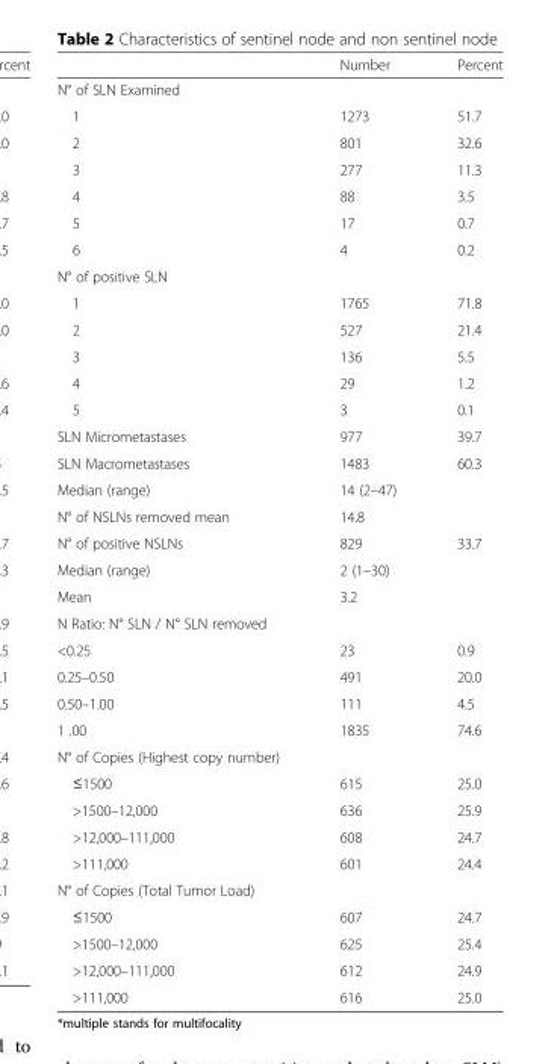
<table><thead><tr><td></td><td>Number</td><td>Percent</td></tr></thead><tbody><tr><td colspan="3">N° of SLN Examined</td></tr><tr><td>1</td><td>1273</td><td>51.7</td></tr><tr><td>2</td><td>801</td><td>32.6</td></tr><tr><td>3</td><td>277</td><td>11.3</td></tr><tr><td>4</td><td>88</td><td>3.5</td></tr><tr><td>5</td><td>17</td><td>0.7</td></tr><tr><td>6</td><td>4</td><td>0.2</td></tr><tr><td colspan="3">N° of positive SLN</td></tr><tr><td>1</td><td>1765</td><td>71.8</td></tr><tr><td>2</td><td>527</td><td>21.4</td></tr><tr><td>3</td><td>136</td><td>5.5</td></tr><tr><td>4</td><td>29</td><td>1.2</td></tr><tr><td>5</td><td>3</td><td>0.1</td></tr><tr><td>SLN Micrometastases</td><td>977</td><td>39.7</td></tr><tr><td>SLN Macrometastases</td><td>1483</td><td>60.3</td></tr><tr><td>Median (range)</td><td>14 (2–47)</td><td></td></tr><tr><td>N° of NSLNs removed mean</td><td>14.8</td><td></td></tr><tr><td>N° of positive NSLNs</td><td>829</td><td>33.7</td></tr><tr><td>Median (range)</td><td>2 (1–30)</td><td></td></tr><tr><td>Mean</td><td>3.2</td><td></td></tr><tr><td colspan="3">N Ratio: N° SLN / N° SLN removed</td></tr><tr><td>&lt;0.25</td><td>23</td><td>0.9</td></tr><tr><td>0.25–0.50</td><td>491</td><td>20.0</td></tr><tr><td>0.50–1.00</td><td>111</td><td>4.5</td></tr><tr><td>1 .00</td><td>1835</td><td>74.6</td></tr><tr><td colspan="3">N° of Copies (Highest copy number)</td></tr><tr><td>≤1500</td><td>615</td><td>25.0</td></tr><tr><td>&gt;1500–12,000</td><td>636</td><td>25.9</td></tr><tr><td>&gt;12,000–111,000</td><td>608</td><td>24.7</td></tr><tr><td>&gt;111,000</td><td>601</td><td>24.4</td></tr><tr><td colspan="3">N° of Copies (Total Tumor Load)</td></tr><tr><td>≤1500</td><td>607</td><td>24.7</td></tr><tr><td>&gt;1500–12,000</td><td>625</td><td>25.4</td></tr><tr><td>&gt;12,000–111,000</td><td>612</td><td>24.9</td></tr><tr><td>&gt;111,000</td><td>616</td><td>25.0</td></tr></tbody></table>